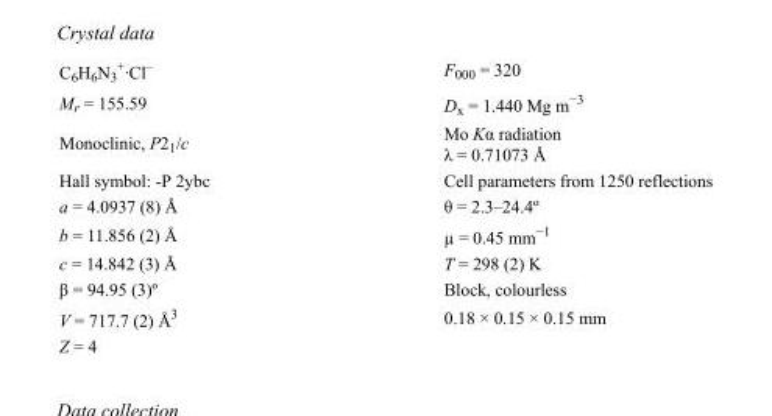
<table><tbody><tr><td>C<sub>6</sub>H<sub>6</sub>N<sub>3</sub> <sup>+</sup>·Cl<sup>–</sup></td><td>F<sub>000</sub> = 320</td></tr><tr><td>M<sub>r</sub> = 155.59</td><td>D<sub>x</sub> = 1.440 Mg m<sup>−3</sup></td></tr><tr><td>Monoclinic, P2<sub>1</sub>/c</td><td>Mo Kα radiation λ = 0.71073 Å</td></tr><tr><td>Hall symbol: -P 2ybc</td><td>Cell parameters from 1250 reflections</td></tr><tr><td>a = 4.0937 (8) Å</td><td>θ = 2.3–24.4º</td></tr><tr><td>b = 11.856 (2) Å</td><td>µ = 0.45 mm<sup>−1</sup></td></tr><tr><td>c = 14.842 (3) Å</td><td>T = 298 (2) K</td></tr><tr><td>β = 94.95 (3)º</td><td>Block, colourless</td></tr><tr><td>V = 717.7 (2) Å<sup>3</sup></td><td>0.18 × 0.15 × 0.15 mm</td></tr><tr><td>Z = 4</td><td></td></tr></tbody></table>